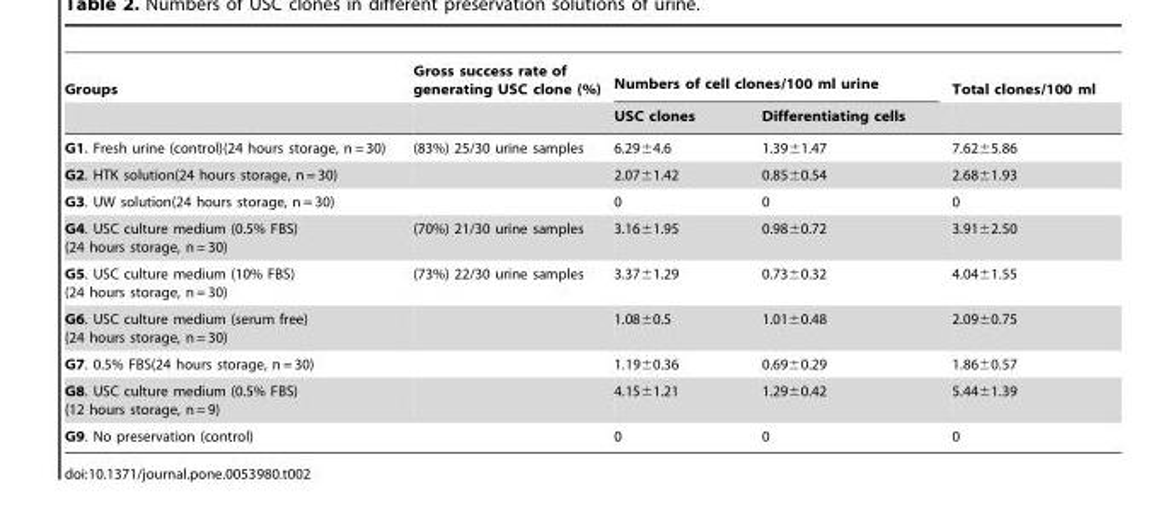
<table><thead><tr><td rowspan="2">Groups</td><td rowspan="2">Gross success rate of generating USC clone (%)</td><td colspan="2">Numbers of cell clones/100 ml urine</td><td rowspan="2">Total clones/100 ml</td></tr><tr><td>USC clones</td><td>Differentiating cells</td></tr></thead><tbody><tr><td>G1. Fresh urine (control)(24 hours storage, n = 30)</td><td>(83%) 25/30 urine samples</td><td>6.29±4.6</td><td>1.39±1.47</td><td>7.62±5.86</td></tr><tr><td>G2. HTK solution(24 hours storage, n = 30)</td><td></td><td>2.07±1.42</td><td>0.85±0.54</td><td>2.68±1.93</td></tr><tr><td>G3. UW solution(24 hours storage, n = 30)</td><td></td><td>0</td><td>0</td><td>0</td></tr><tr><td>G4. USC culture medium (0.5% FBS) (24 hours storage, n = 30)</td><td>(70%) 21/30 urine samples</td><td>3.16±1.95</td><td>0.98±0.72</td><td>3.91±2.50</td></tr><tr><td>G5. USC culture medium (10% FBS) (24 hours storage, n = 30)</td><td>(73%) 22/30 urine samples</td><td>3.37±1.29</td><td>0.73±0.32</td><td>4.04±1.55</td></tr><tr><td>G6. USC culture medium (serum free) (24 hours storage, n = 30)</td><td></td><td>1.08±0.5</td><td>1.01±0.48</td><td>2.09±0.75</td></tr><tr><td>G7. 0.5% FBS(24 hours storage, n = 30)</td><td></td><td>1.19±0.36</td><td>0.69±0.29</td><td>1.86±0.57</td></tr><tr><td>G8. USC culture medium (0.5% FBS) (12 hours storage, n = 9)</td><td></td><td>4.15±1.21</td><td>1.29±0.42</td><td>5.44±1.39</td></tr><tr><td>G9. No preservation (control)</td><td></td><td>0</td><td>0</td><td>0</td></tr></tbody></table>